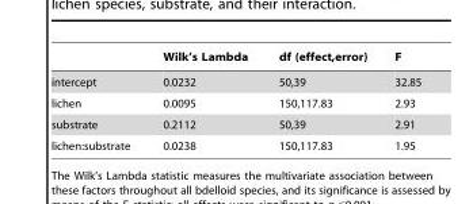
<table><thead><tr><td></td><td>Wilk’s Lambda</td><td>df (effect,error)</td><td>F</td></tr></thead><tbody><tr><td>intercept</td><td>0.0232</td><td>50,39</td><td>32.85</td></tr><tr><td>lichen</td><td>0.0095</td><td>150,117.83</td><td>2.93</td></tr><tr><td>substrate</td><td>0.2112</td><td>50,39</td><td>2.91</td></tr><tr><td>lichen:substrate</td><td>0.0238</td><td>150,117.83</td><td>1.95</td></tr></tbody></table>